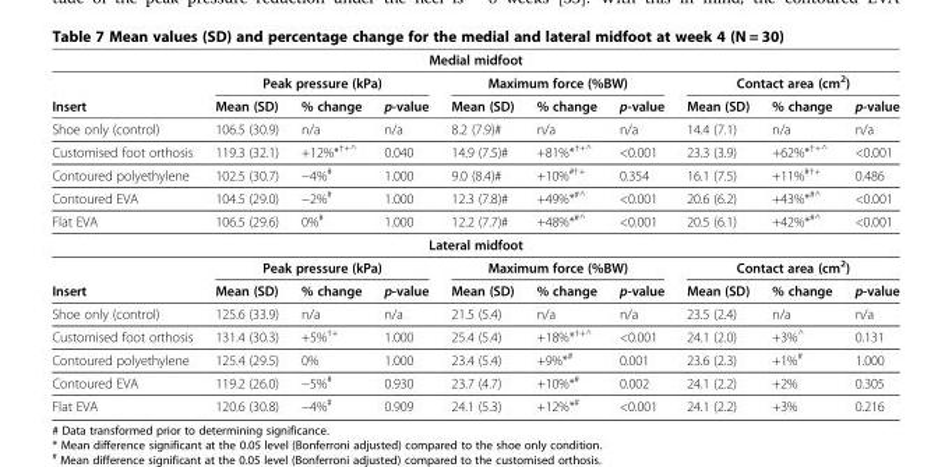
<table><thead><tr><td colspan="10">Medial midfoot</td></tr><tr><td rowspan="2">Insert</td><td colspan="3">Peak pressure (kPa)</td><td colspan="3">Maximum force (%BW)</td><td colspan="3">Contact area (cm<sup>2</sup>)</td></tr><tr><td>Mean (SD)</td><td>% change</td><td>p-value</td><td>Mean (SD)</td><td>% change</td><td>p-value</td><td>Mean (SD)</td><td>% change</td><td>p-value</td></tr></thead><tbody><tr><td>Shoe only (control)</td><td>106.5 (30.9)</td><td>n/a</td><td>n/a</td><td>8.2 (7.9)#</td><td>n/a</td><td>n/a</td><td>14.4 (7.1)</td><td>n/a</td><td>n/a</td></tr><tr><td>Customised foot orthosis</td><td>119.3 (32.1)</td><td>+12%*†+^</td><td>0.040</td><td>14.9 (7.5)#</td><td>+81%*†+^</td><td>&lt;0.001</td><td>23.3 (3.9)</td><td>+62%*†+^</td><td>&lt;0.001</td></tr><tr><td>Contoured polyethylene</td><td>102.5 (30.7)</td><td>−4%<sup>#</sup></td><td>1.000</td><td>9.0 (8.4)#</td><td>+10%<sup>#†+</sup></td><td>0.354</td><td>16.1 (7.5)</td><td>+11%<sup>#†+</sup></td><td>0.486</td></tr><tr><td>Contoured EVA</td><td>104.5 (29.0)</td><td>−2%<sup>#</sup></td><td>1.000</td><td>12.3 (7.8)#</td><td>+49%*#^</td><td>&lt;0.001</td><td>20.6 (6.2)</td><td>+43%*#^</td><td>&lt;0.001</td></tr><tr><td>Flat EVA</td><td>106.5 (29.6)</td><td>0%<sup>#</sup></td><td>1.000</td><td>12.2 (7.7)#</td><td>+48%*#^</td><td>&lt;0.001</td><td>20.5 (6.1)</td><td>+42%*#^</td><td>&lt;0.001</td></tr><tr><td colspan="10">Lateral midfoot</td></tr><tr><td></td><td colspan="3">Peak pressure (kPa)</td><td colspan="3">Maximum force (%BW)</td><td colspan="3">Contact area (cm<sup>2</sup>)</td></tr><tr><td>Insert</td><td>Mean (SD)</td><td>% change</td><td>p-value</td><td>Mean (SD)</td><td>% change</td><td>p-value</td><td>Mean (SD)</td><td>% change</td><td>p-value</td></tr><tr><td>Shoe only (control)</td><td>125.6 (33.9)</td><td>n/a</td><td>n/a</td><td>21.5 (5.4)</td><td>n/a</td><td>n/a</td><td>23.5 (2.4)</td><td>n/a</td><td>n/a</td></tr><tr><td>Customised foot orthosis</td><td>131.4 (30.3)</td><td>+5%<sup>†+</sup></td><td>1.000</td><td>25.4 (5.4)</td><td>+18%*†+^</td><td>&lt;0.001</td><td>24.1 (2.0)</td><td>+3%<sup>^</sup></td><td>0.131</td></tr><tr><td>Contoured polyethylene</td><td>125.4 (29.5)</td><td>0%</td><td>1.000</td><td>23.4 (5.4)</td><td>+9%*<sup>#</sup></td><td>0.001</td><td>23.6 (2.3)</td><td>+1%<sup>#</sup></td><td>1.000</td></tr><tr><td>Contoured EVA</td><td>119.2 (26.0)</td><td>−5%<sup>#</sup></td><td>0.930</td><td>23.7 (4.7)</td><td>+10%*<sup>#</sup></td><td>0.002</td><td>24.1 (2.2)</td><td>+2%</td><td>0.305</td></tr><tr><td>Flat EVA</td><td>120.6 (30.8)</td><td>−4%<sup>#</sup></td><td>0.909</td><td>24.1 (5.3)</td><td>+12%*<sup>#</sup></td><td>&lt;0.001</td><td>24.1 (2.2)</td><td>+3%</td><td>0.216</td></tr></tbody></table>